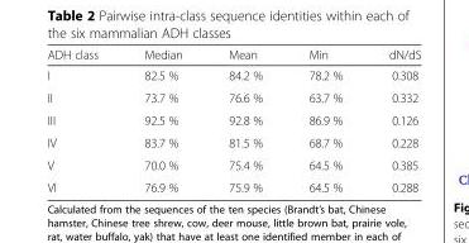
<table><thead><tr><td>ADH class</td><td>Median</td><td>Mean</td><td>Min</td><td>dN/dS</td></tr></thead><tbody><tr><td>I</td><td>82.5 %</td><td>84.2 %</td><td>78.2 %</td><td>0.308</td></tr><tr><td>II</td><td>73.7 %</td><td>76.6 %</td><td>63.7 %</td><td>0.332</td></tr><tr><td>III</td><td>92.5 %</td><td>92.8 %</td><td>86.9 %</td><td>0.126</td></tr><tr><td>IV</td><td>83.7 %</td><td>81.5 %</td><td>68.7 %</td><td>0.228</td></tr><tr><td>V</td><td>70.0 %</td><td>75.4 %</td><td>64.5 %</td><td>0.385</td></tr><tr><td>VI</td><td>76.9 %</td><td>75.9 %</td><td>64.5 %</td><td>0.288</td></tr></tbody></table>